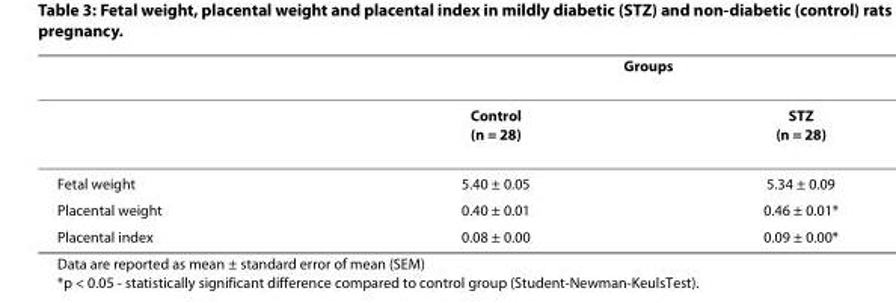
<table><thead><tr><td rowspan="2"></td><td colspan="2">Groups</td></tr><tr><td>Control (n = 28)</td><td>STZ (n = 28)</td></tr></thead><tbody><tr><td>Fetal weight</td><td>5.40 ± 0.05</td><td>5.34 ± 0.09</td></tr><tr><td>Placental weight</td><td>0.40 ± 0.01</td><td>0.46 ± 0.01*</td></tr><tr><td>Placental index</td><td>0.08 ± 0.00</td><td>0.09 ± 0.00*</td></tr></tbody></table>